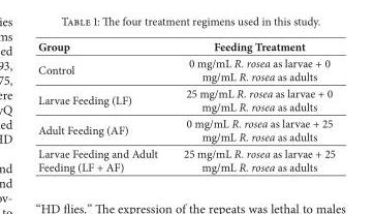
<table><thead><tr><td>Group</td><td>Feeding Treatment</td></tr></thead><tbody><tr><td>Control</td><td>0 mg/mL R. rosea as larvae + 0 mg/mL R. rosea as adults</td></tr><tr><td>Larvae Feeding (LF)</td><td>25 mg/mL R. rosea as larvae + 0 mg/mL R. rosea as adults</td></tr><tr><td>Adult Feeding (AF)</td><td>0 mg/mL R. rosea as larvae + 25 mg/mL R. rosea as adults</td></tr><tr><td>Larvae Feeding and Adult Feeding (LF + AF)</td><td>25 mg/mL R. rosea as larvae + 25 mg/mL R. rosea as adults</td></tr></tbody></table>